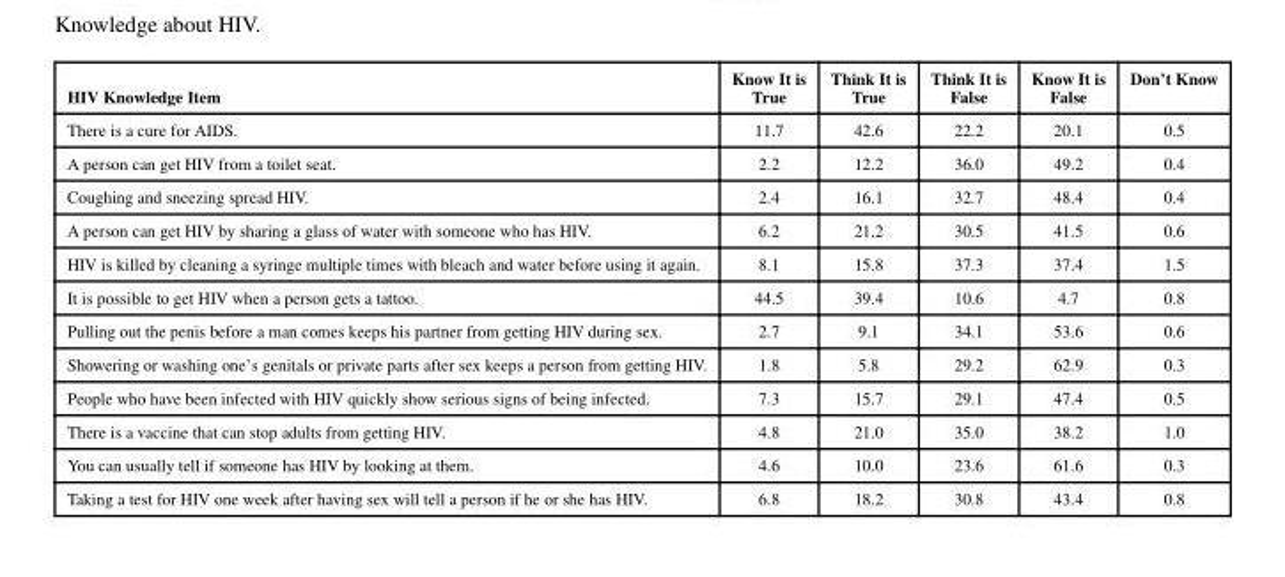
<table><thead><tr><td>HIV Knowledge Item</td><td>Know It is True</td><td>Think It is True</td><td>Think It is False</td><td>Know It is False</td><td>Don’t Know</td></tr></thead><tbody><tr><td>There is a cure for AIDS.</td><td>11.7</td><td>42.6</td><td>22.2</td><td>20.1</td><td>0.5</td></tr><tr><td>A person can get HIV from a toilet seat.</td><td>2.2</td><td>12.2</td><td>36.0</td><td>49.2</td><td>0.4</td></tr><tr><td>Coughing and sneezing spread HIV.</td><td>2.4</td><td>16.1</td><td>32.7</td><td>48.4</td><td>0.4</td></tr><tr><td>A person can get HIV by sharing a glass of water with someone who has HIV.</td><td>6.2</td><td>21.2</td><td>30.5</td><td>41.5</td><td>0.6</td></tr><tr><td>HIV is killed by cleaning a syringe multiple times with bleach and water before using it again.</td><td>8.1</td><td>15.8</td><td>37.3</td><td>37.4</td><td>1.5</td></tr><tr><td>It is possible to get HIV when a person gets a tattoo.</td><td>44.5</td><td>39.4</td><td>10.6</td><td>4.7</td><td>0.8</td></tr><tr><td>Pulling out the penis before a man comes keeps his partner from getting HIV during sex.</td><td>2.7</td><td>9.1</td><td>34.1</td><td>53.6</td><td>0.6</td></tr><tr><td>Showering or washing one’s genitals or private parts after sex keeps a person from getting HIV.</td><td>1.8</td><td>5.8</td><td>29.2</td><td>62.9</td><td>0.3</td></tr><tr><td>People who have been infected with HIV quickly show serious signs of being infected.</td><td>7.3</td><td>15.7</td><td>29.1</td><td>47.4</td><td>0.5</td></tr><tr><td>There is a vaccine that can stop adults from getting HIV.</td><td>4.8</td><td>21.0</td><td>35.0</td><td>38.2</td><td>1.0</td></tr><tr><td>You can usually tell if someone has HIV by looking at them.</td><td>4.6</td><td>10.0</td><td>23.6</td><td>61.6</td><td>0.3</td></tr><tr><td>Taking a test for HIV one week after having sex will tell a person if he or she has HIV.</td><td>6.8</td><td>18.2</td><td>30.8</td><td>43.4</td><td>0.8</td></tr></tbody></table>